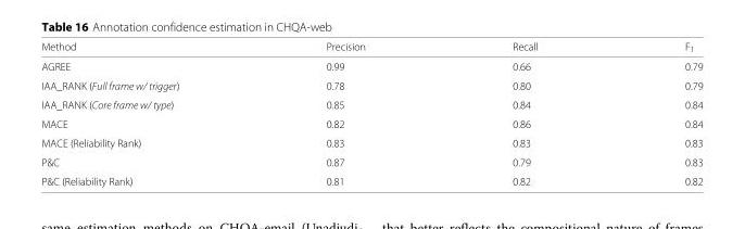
<table><thead><tr><td>Method</td><td>Precision</td><td>Recall</td><td>F<sub>1</sub></td></tr></thead><tbody><tr><td>AGREE</td><td>0.99</td><td>0.66</td><td>0.79</td></tr><tr><td>IAA_RANK (Full frame w/ trigger)</td><td>0.78</td><td>0.80</td><td>0.79</td></tr><tr><td>IAA_RANK (Core frame w/ type)</td><td>0.85</td><td>0.84</td><td>0.84</td></tr><tr><td>MACE</td><td>0.82</td><td>0.86</td><td>0.84</td></tr><tr><td>MACE (Reliability Rank)</td><td>0.83</td><td>0.83</td><td>0.83</td></tr><tr><td>P&amp;C</td><td>0.87</td><td>0.79</td><td>0.83</td></tr><tr><td>P&amp;C (Reliability Rank)</td><td>0.81</td><td>0.82</td><td>0.82</td></tr></tbody></table>